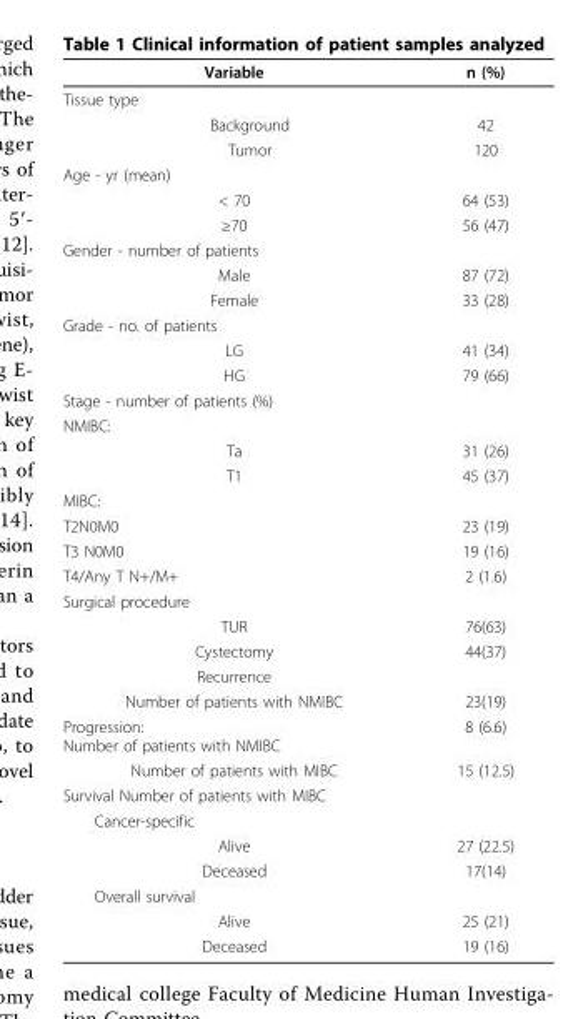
<table><thead><tr><td>Variable</td><td>n (%)</td></tr></thead><tbody><tr><td colspan="2">Tissue type</td></tr><tr><td>Background</td><td>42</td></tr><tr><td>Tumor</td><td>120</td></tr><tr><td colspan="2">Age - yr (mean)</td></tr><tr><td>&lt; 70</td><td>64 (53)</td></tr><tr><td>≥70</td><td>56 (47)</td></tr><tr><td colspan="2">Gender - number of patients</td></tr><tr><td>Male</td><td>87 (72)</td></tr><tr><td>Female</td><td>33 (28)</td></tr><tr><td colspan="2">Grade - no. of patients</td></tr><tr><td>LG</td><td>41 (34)</td></tr><tr><td>HG</td><td>79 (66)</td></tr><tr><td colspan="2">Stage - number of patients (%)</td></tr><tr><td colspan="2">NMIBC:</td></tr><tr><td>Ta</td><td>31 (26)</td></tr><tr><td>T1</td><td>45 (37)</td></tr><tr><td colspan="2">MIBC:</td></tr><tr><td>T2N0M0</td><td>23 (19)</td></tr><tr><td>T3 N0M0</td><td>19 (16)</td></tr><tr><td>T4/Any T N+/M+</td><td>2 (1.6)</td></tr><tr><td colspan="2">Surgical procedure</td></tr><tr><td>TUR</td><td>76(63)</td></tr><tr><td>Cystectomy</td><td>44(37)</td></tr><tr><td colspan="2">Recurrence</td></tr><tr><td>Number of patients with NMIBC</td><td>23(19)</td></tr><tr><td>Progression: Number of patients with NMIBC</td><td>8 (6.6)</td></tr><tr><td>Number of patients with MIBC</td><td>15 (12.5)</td></tr><tr><td colspan="2">Survival Number of patients with MIBC</td></tr><tr><td colspan="2">Cancer-specific</td></tr><tr><td>Alive</td><td>27 (22.5)</td></tr><tr><td>Deceased</td><td>17(14)</td></tr><tr><td colspan="2">Overall survival</td></tr><tr><td>Alive</td><td>25 (21)</td></tr><tr><td>Deceased</td><td>19 (16)</td></tr></tbody></table>